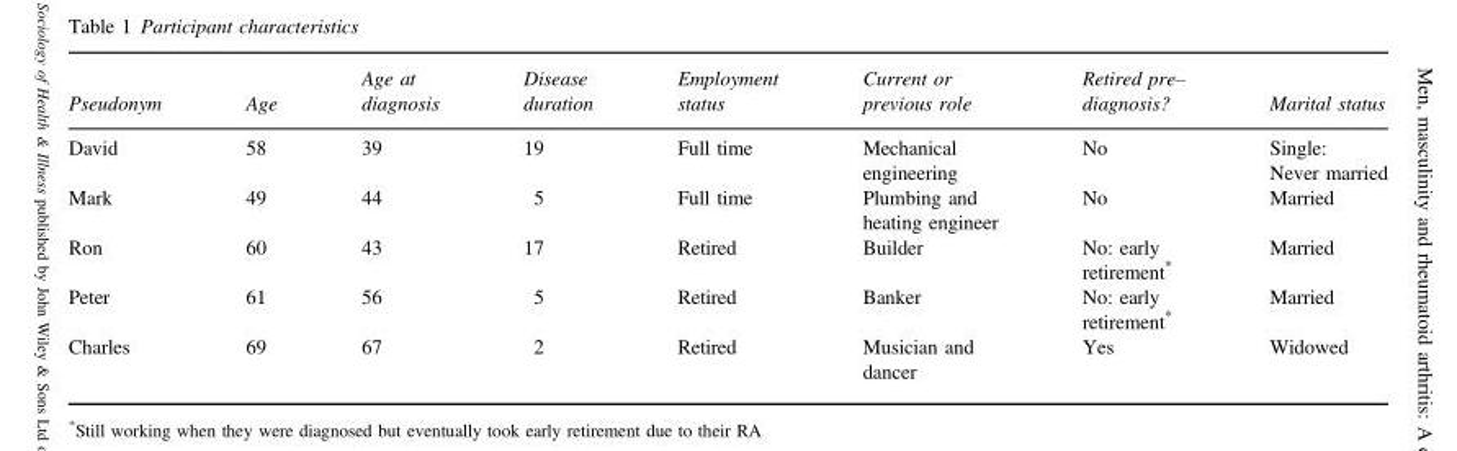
<table><thead><tr><td>Pseudonym</td><td>Age</td><td>Age at diagnosis</td><td>Disease duration</td><td>Employment status</td><td>Current or previous role</td><td>Retired pre– diagnosis?</td><td>Marital status</td></tr></thead><tbody><tr><td>David</td><td>58</td><td>39</td><td>19</td><td>Full time</td><td>Mechanical engineering</td><td>No</td><td>Single: Never married</td></tr><tr><td>Mark</td><td>49</td><td>44</td><td>5</td><td>Full time</td><td>Plumbing and heating engineer</td><td>No</td><td>Married</td></tr><tr><td>Ron</td><td>60</td><td>43</td><td>17</td><td>Retired</td><td>Builder</td><td>No: early retirement*</td><td>Married</td></tr><tr><td>Peter</td><td>61</td><td>56</td><td>5</td><td>Retired</td><td>Banker</td><td>No: early retirement*</td><td>Married</td></tr><tr><td>Charles</td><td>69</td><td>67</td><td>2</td><td>Retired</td><td>Musician and dancer</td><td>Yes</td><td>Widowed</td></tr></tbody></table>